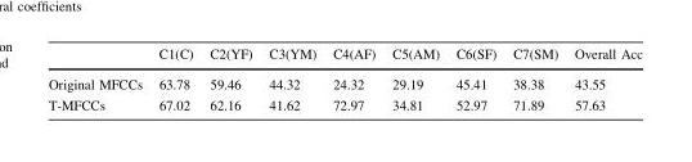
<table><thead><tr><td></td><td>C1(C)</td><td>C2(YF)</td><td>C3(YM)</td><td>C4(AF)</td><td>C5(AM)</td><td>C6(SF)</td><td>C7(SM)</td><td>Overall Acc</td></tr></thead><tbody><tr><td>Original MFCCs</td><td>63.78</td><td>59.46</td><td>44.32</td><td>24.32</td><td>29.19</td><td>45.41</td><td>38.38</td><td>43.55</td></tr><tr><td>T-MFCCs</td><td>67.02</td><td>62.16</td><td>41.62</td><td>72.97</td><td>34.81</td><td>52.97</td><td>71.89</td><td>57.63</td></tr></tbody></table>